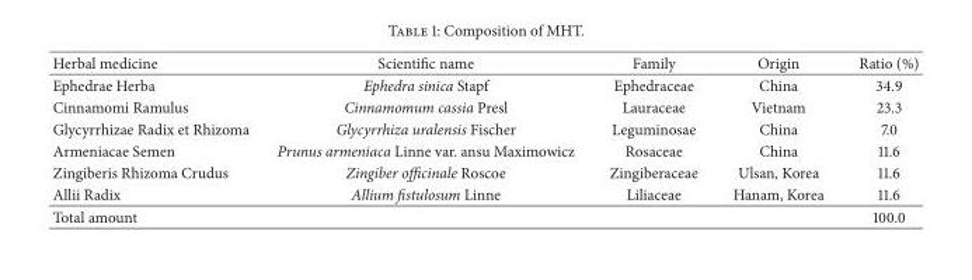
<table><thead><tr><td>Herbal medicine</td><td>Scientific name</td><td>Family</td><td>Origin</td><td>Ratio (%)</td></tr></thead><tbody><tr><td>Ephedrae Herba</td><td>Ephedra sinica Stapf</td><td>Ephedraceae</td><td>China</td><td>34.9</td></tr><tr><td>Cinnamomi Ramulus</td><td>Cinnamomum cassia Presl</td><td>Lauraceae</td><td>Vietnam</td><td>23.3</td></tr><tr><td>Glycyrrhizae Radix et Rhizoma</td><td>Glycyrrhiza uralensis Fischer</td><td>Leguminosae</td><td>China</td><td>7.0</td></tr><tr><td>Armeniacae Semen</td><td>Prunus armeniaca Linne var. ansu Maximowicz</td><td>Rosaceae</td><td>China</td><td>11.6</td></tr><tr><td>Zingiberis Rhizoma Crudus</td><td>Zingiber officinale Roscoe</td><td>Zingiberaceae</td><td>Ulsan, Korea</td><td>11.6</td></tr><tr><td>Allii Radix</td><td>Allium fistulosum Linne</td><td>Liliaceae</td><td>Hanam, Korea</td><td>11.6</td></tr><tr><td>Total amount</td><td></td><td></td><td></td><td>100.0</td></tr></tbody></table>